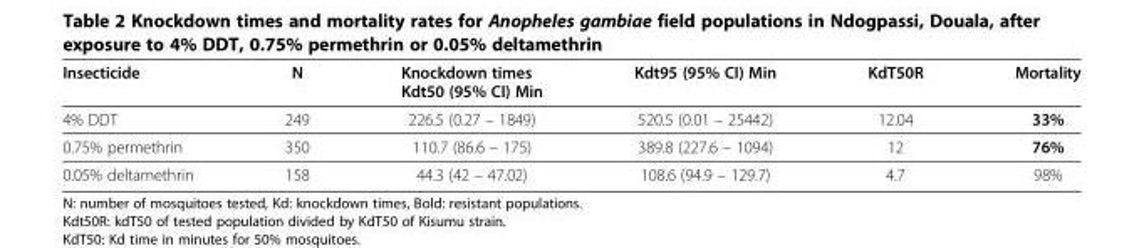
<table><thead><tr><td>Insecticide</td><td>N</td><td>Knockdown times Kdt50 (95% CI) Min</td><td>Kdt95 (95% CI) Min</td><td>KdT50R</td><td>Mortality</td></tr></thead><tbody><tr><td>4% DDT</td><td>249</td><td>226.5 (0.27 – 1849)</td><td>520.5 (0.01 – 25442)</td><td>12.04</td><td>33%</td></tr><tr><td>0.75% permethrin</td><td>350</td><td>110.7 (86.6 – 175)</td><td>389.8 (227.6 – 1094)</td><td>12</td><td>76%</td></tr><tr><td>0.05% deltamethrin</td><td>158</td><td>44.3 (42 – 47.02)</td><td>108.6 (94.9 – 129.7)</td><td>4.7</td><td>98%</td></tr></tbody></table>